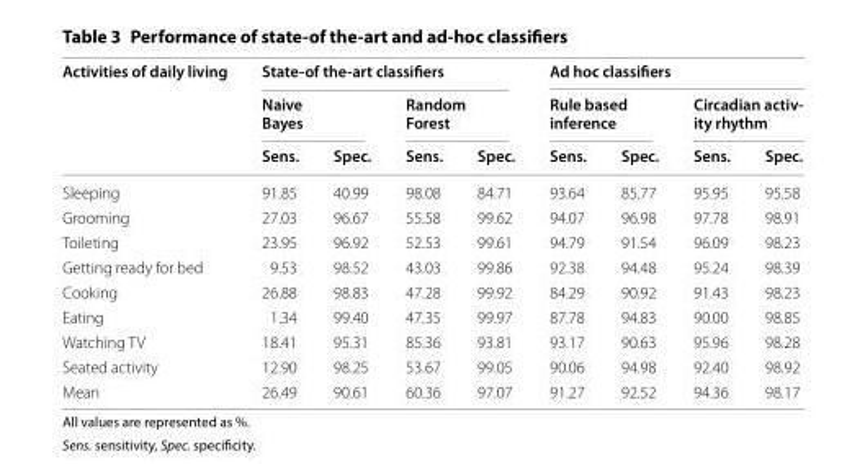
<table><thead><tr><td rowspan="3">Activities of daily living</td><td colspan="4">State-of the-art classifiers</td><td colspan="4">Ad hoc classifiers</td></tr><tr><td colspan="2">Naive Bayes</td><td colspan="2">Random Forest</td><td colspan="2">Rule based inference</td><td colspan="2">Circadian activ- ity rhythm</td></tr><tr><td>Sens.</td><td>Spec.</td><td>Sens.</td><td>Spec.</td><td>Sens.</td><td>Spec.</td><td>Sens.</td><td>Spec.</td></tr></thead><tbody><tr><td>Sleeping</td><td>91.85</td><td>40.99</td><td>98.08</td><td>84.71</td><td>93.64</td><td>85.77</td><td>95.95</td><td>95.58</td></tr><tr><td>Grooming</td><td>27.03</td><td>96.67</td><td>55.58</td><td>99.62</td><td>94.07</td><td>96.98</td><td>97.78</td><td>98.91</td></tr><tr><td>Toileting</td><td>23.95</td><td>96.92</td><td>52.53</td><td>99.61</td><td>94.79</td><td>91.54</td><td>96.09</td><td>98.23</td></tr><tr><td>Getting ready for bed</td><td>9.53</td><td>98.52</td><td>43.03</td><td>99.86</td><td>92.38</td><td>94.48</td><td>95.24</td><td>98.39</td></tr><tr><td>Cooking</td><td>26.88</td><td>98.83</td><td>47.28</td><td>99.92</td><td>84.29</td><td>90.92</td><td>91.43</td><td>98.23</td></tr><tr><td>Eating</td><td>1.34</td><td>99.40</td><td>47.35</td><td>99.97</td><td>87.78</td><td>94.83</td><td>90.00</td><td>98.85</td></tr><tr><td>Watching TV</td><td>18.41</td><td>95.31</td><td>85.36</td><td>93.81</td><td>93.17</td><td>90.63</td><td>95.96</td><td>98.28</td></tr><tr><td>Seated activity</td><td>12.90</td><td>98.25</td><td>53.67</td><td>99.05</td><td>90.06</td><td>94.98</td><td>92.40</td><td>98.92</td></tr><tr><td>Mean</td><td>26.49</td><td>90.61</td><td>60.36</td><td>97.07</td><td>91.27</td><td>92.52</td><td>94.36</td><td>98.17</td></tr></tbody></table>